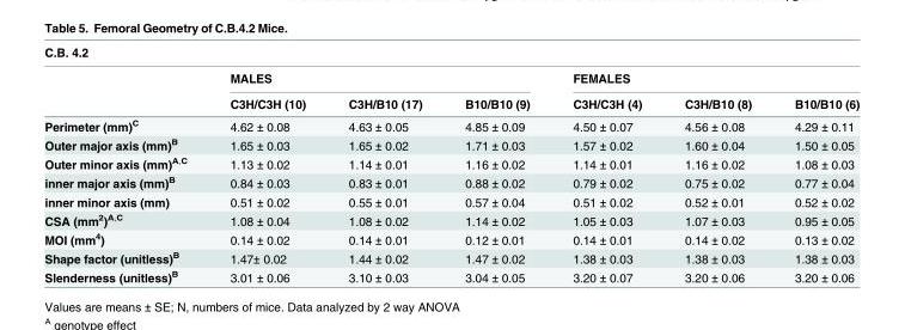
<table><thead><tr><td colspan="7">C.B. 4.2</td></tr><tr><td rowspan="2"></td><td colspan="3">MALES</td><td colspan="3">FEMALES</td></tr><tr><td>C3H/C3H (10)</td><td>C3H/B10 (17)</td><td>B10/B10 (9)</td><td>C3H/C3H (4)</td><td>C3H/B10 (8)</td><td>B10/B10 (6)</td></tr></thead><tbody><tr><td>Perimeter (mm)<sup>C</sup></td><td>4.62 ± 0.08</td><td>4.63 ± 0.05</td><td>4.85 ± 0.09</td><td>4.50 ± 0.07</td><td>4.56 ± 0.08</td><td>4.29 ± 0.11</td></tr><tr><td>Outer major axis (mm)<sup>B</sup></td><td>1.65 ± 0.03</td><td>1.65 ± 0.02</td><td>1.71 ± 0.03</td><td>1.57 ± 0.02</td><td>1.60 ± 0.04</td><td>1.50 ± 0.05</td></tr><tr><td>Outer minor axis (mm)<sup>A,C</sup></td><td>1.13 ± 0.02</td><td>1.14 ± 0.01</td><td>1.16 ± 0.02</td><td>1.14 ± 0.01</td><td>1.16 ± 0.02</td><td>1.08 ± 0.03</td></tr><tr><td>inner major axis (mm)<sup>B</sup></td><td>0.84 ± 0.03</td><td>0.83 ± 0.01</td><td>0.88 ± 0.02</td><td>0.79 ± 0.02</td><td>0.75 ± 0.02</td><td>0.77 ± 0.04</td></tr><tr><td>inner minor axis (mm)</td><td>0.51 ± 0.02</td><td>0.55 ± 0.01</td><td>0.57 ± 0.04</td><td>0.51 ± 0.02</td><td>0.52 ± 0.01</td><td>0.52 ± 0.02</td></tr><tr><td>CSA (mm<sup>2</sup>)<sup>A,C</sup></td><td>1.08 ± 0.04</td><td>1.08 ± 0.02</td><td>1.14 ± 0.02</td><td>1.05 ± 0.03</td><td>1.07 ± 0.03</td><td>0.95 ± 0.05</td></tr><tr><td>MOI (mm<sup>4</sup>)</td><td>0.14 ± 0.02</td><td>0.14 ± 0.01</td><td>0.12 ± 0.01</td><td>0.14 ± 0.01</td><td>0.14 ± 0.02</td><td>0.13 ± 0.02</td></tr><tr><td>Shape factor (unitless)<sup>B</sup></td><td>1.47± 0.02</td><td>1.44 ± 0.02</td><td>1.47 ± 0.02</td><td>1.38 ± 0.03</td><td>1.38 ± 0.03</td><td>1.38 ± 0.03</td></tr><tr><td>Slenderness (unitless)<sup>B</sup></td><td>3.01 ± 0.06</td><td>3.10 ± 0.03</td><td>3.04 ± 0.05</td><td>3.20 ± 0.07</td><td>3.20 ± 0.06</td><td>3.20 ± 0.06</td></tr></tbody></table>